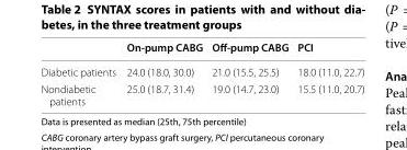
<table><thead><tr><td></td><td>On‑pump CABG</td><td>Off‑pump CABG</td><td>PCI</td></tr></thead><tbody><tr><td>Diabetic patients</td><td>24.0 (18.0, 30.0)</td><td>21.0 (15.5, 25.5)</td><td>18.0 (11.0, 22.7)</td></tr><tr><td>Nondiabetic patients</td><td>25.0 (18.7, 31.4)</td><td>19.0 (14.7, 23.0)</td><td>15.5 (11.0, 20.7)</td></tr></tbody></table>